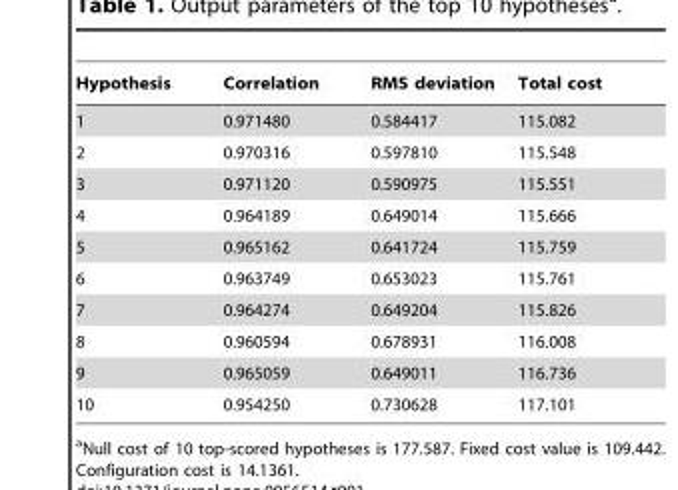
<table><thead><tr><td>Hypothesis</td><td>Correlation</td><td>RMS deviation</td><td>Total cost</td></tr></thead><tbody><tr><td>1</td><td>0.971480</td><td>0.584417</td><td>115.082</td></tr><tr><td>2</td><td>0.970316</td><td>0.597810</td><td>115.548</td></tr><tr><td>3</td><td>0.971120</td><td>0.590975</td><td>115.551</td></tr><tr><td>4</td><td>0.964189</td><td>0.649014</td><td>115.666</td></tr><tr><td>5</td><td>0.965162</td><td>0.641724</td><td>115.759</td></tr><tr><td>6</td><td>0.963749</td><td>0.653023</td><td>115.761</td></tr><tr><td>7</td><td>0.964274</td><td>0.649204</td><td>115.826</td></tr><tr><td>8</td><td>0.960594</td><td>0.678931</td><td>116.008</td></tr><tr><td>9</td><td>0.965059</td><td>0.649011</td><td>116.736</td></tr><tr><td>10</td><td>0.954250</td><td>0.730628</td><td>117.101</td></tr></tbody></table>